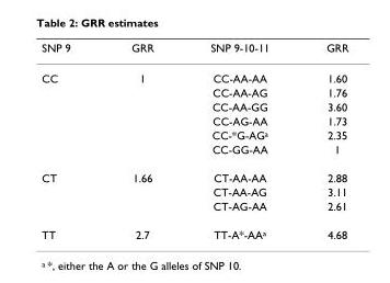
<table><thead><tr><td>SNP 9</td><td>GRR</td><td>SNP 9-10-11</td><td>GRR</td></tr></thead><tbody><tr><td rowspan="6">CC</td><td>1</td><td>CC-AA-AA</td><td>1.60</td></tr><tr><td></td><td>CC-AA-AG</td><td>1.76</td></tr><tr><td></td><td>CC-AA-GG</td><td>3.60</td></tr><tr><td></td><td>CC-AG-AA</td><td>1.73</td></tr><tr><td></td><td>CC-*G-AG<sup>a</sup></td><td>2.35</td></tr><tr><td></td><td>CC-GG-AA</td><td>1</td></tr><tr><td rowspan="3">CT</td><td>1.66</td><td>CT-AA-AA</td><td>2.88</td></tr><tr><td></td><td>CT-AA-AG</td><td>3.11</td></tr><tr><td></td><td>CT-AG-AA</td><td>2.61</td></tr><tr><td>TT</td><td>2.7</td><td>TT-A*-AA<sup>a</sup></td><td>4.68</td></tr></tbody></table>